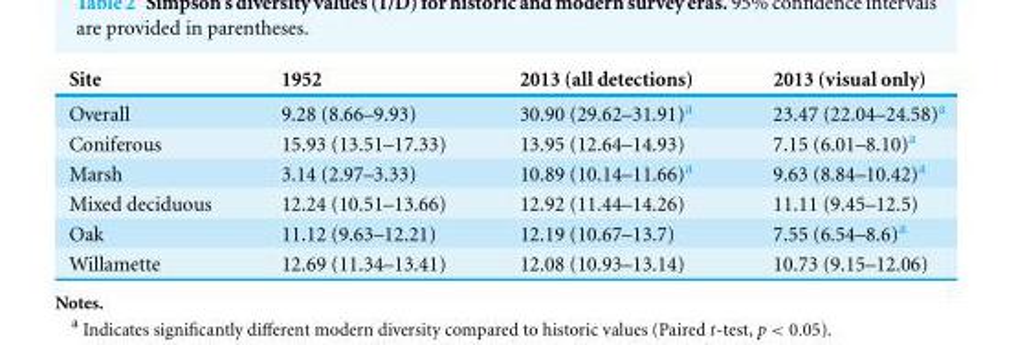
<table><thead><tr><td>Site</td><td>1952</td><td>2013 (all detections)</td><td>2013 (visual only)</td></tr></thead><tbody><tr><td>Overall</td><td>9.28 (8.66–9.93)</td><td>30.90 (29.62–31.91)<sup>a</sup></td><td>23.47 (22.04–24.58)<sup>a</sup></td></tr><tr><td>Coniferous</td><td>15.93 (13.51–17.33)</td><td>13.95 (12.64–14.93)</td><td>7.15 (6.01–8.10)<sup>a</sup></td></tr><tr><td>Marsh</td><td>3.14 (2.97–3.33)</td><td>10.89 (10.14–11.66)<sup>a</sup></td><td>9.63 (8.84–10.42)<sup>a</sup></td></tr><tr><td>Mixed deciduous</td><td>12.24 (10.51–13.66)</td><td>12.92 (11.44–14.26)</td><td>11.11 (9.45–12.5)</td></tr><tr><td>Oak</td><td>11.12 (9.63–12.21)</td><td>12.19 (10.67–13.7)</td><td>7.55 (6.54–8.6)<sup>a</sup></td></tr><tr><td>Willamette</td><td>12.69 (11.34–13.41)</td><td>12.08 (10.93–13.14)</td><td>10.73 (9.15–12.06)</td></tr></tbody></table>